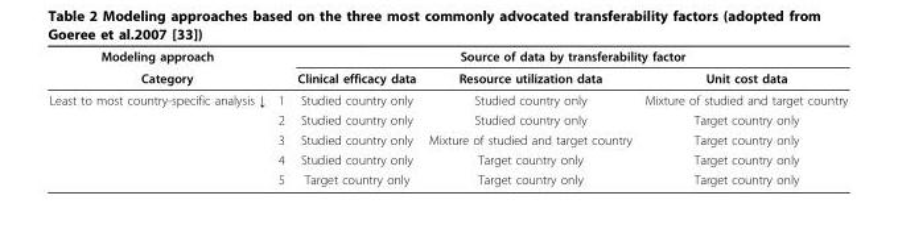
<table><thead><tr><td>Modeling approach</td><td></td><td colspan="3">Source of data by transferability factor</td></tr><tr><td colspan="2">Category</td><td>Clinical efficacy data</td><td>Resource utilization data</td><td>Unit cost data</td></tr></thead><tbody><tr><td rowspan="5">Least to most country-specific analysis ↓</td><td>1</td><td>Studied country only</td><td>Studied country only</td><td>Mixture of studied and target country</td></tr><tr><td>2</td><td>Studied country only</td><td>Studied country only</td><td>Target country only</td></tr><tr><td>3</td><td>Studied country only</td><td>Mixture of studied and target country</td><td>Target country only</td></tr><tr><td>4</td><td>Studied country only</td><td>Target country only</td><td>Target country only</td></tr><tr><td>5</td><td>Target country only</td><td>Target country only</td><td>Target country only</td></tr></tbody></table>